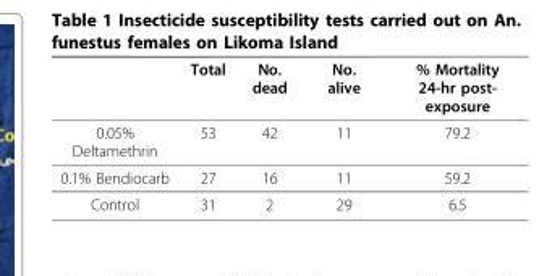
<table><thead><tr><td></td><td>Total</td><td>No. dead</td><td>No. alive</td><td>% Mortality 24-hr post- exposure</td></tr></thead><tbody><tr><td>0.05% Deltamethrin</td><td>53</td><td>42</td><td>11</td><td>79.2</td></tr><tr><td>0.1% Bendiocarb</td><td>27</td><td>16</td><td>11</td><td>59.2</td></tr><tr><td>Control</td><td>31</td><td>2</td><td>29</td><td>6.5</td></tr></tbody></table>